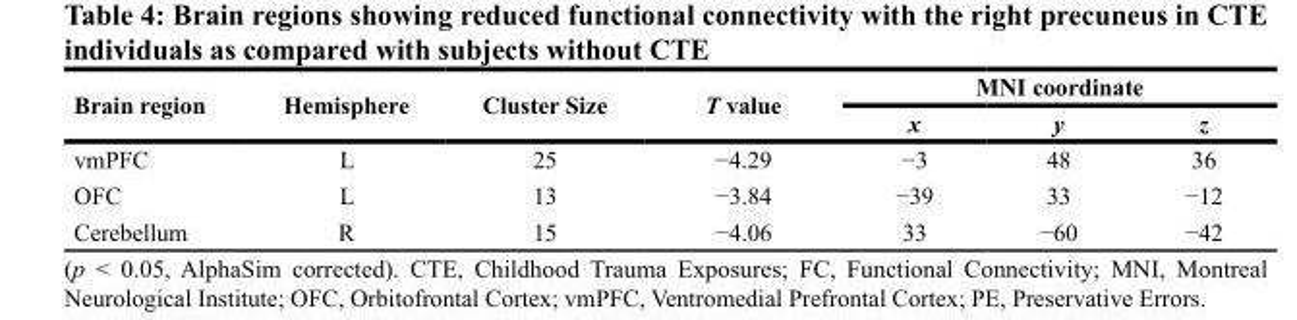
<table><thead><tr><td rowspan="2">Brain region</td><td rowspan="2">Hemisphere</td><td rowspan="2">Cluster Size</td><td rowspan="2">T value</td><td colspan="3">MNI coordinate</td></tr><tr><td>x</td><td>y</td><td>z</td></tr></thead><tbody><tr><td>vmPFC</td><td>L</td><td>25</td><td>−4.29</td><td>−3</td><td>48</td><td>36</td></tr><tr><td>OFC</td><td>L</td><td>13</td><td>−3.84</td><td>−39</td><td>33</td><td>−12</td></tr><tr><td>Cerebellum</td><td>R</td><td>15</td><td>−4.06</td><td>33</td><td>−60</td><td>−42</td></tr></tbody></table>